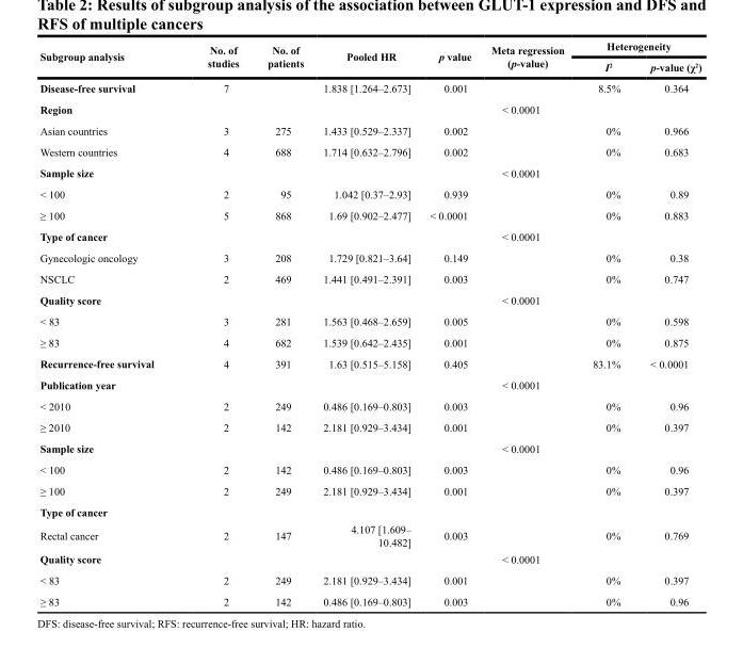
<table><thead><tr><td rowspan="2">Subgroup analysis</td><td rowspan="2">No. of studies</td><td rowspan="2">No. of patients</td><td rowspan="2">Pooled HR</td><td rowspan="2">p value</td><td rowspan="2">Meta regression (p-value)</td><td colspan="2">Heterogeneity</td></tr><tr><td>I<sup>2</sup></td><td>p-value (χ<sup>2</sup>)</td></tr></thead><tbody><tr><td>Disease-free survival</td><td>7</td><td></td><td>1.838 [1.264–2.673]</td><td>0.001</td><td></td><td>8.5%</td><td>0.364</td></tr><tr><td>Region</td><td></td><td></td><td></td><td></td><td>&lt; 0.0001</td><td></td><td></td></tr><tr><td>Asian countries</td><td>3</td><td>275</td><td>1.433 [0.529–2.337]</td><td>0.002</td><td></td><td>0%</td><td>0.966</td></tr><tr><td>Western countries</td><td>4</td><td>688</td><td>1.714 [0.632–2.796]</td><td>0.002</td><td></td><td>0%</td><td>0.683</td></tr><tr><td>Sample size</td><td></td><td></td><td></td><td></td><td>&lt; 0.0001</td><td></td><td></td></tr><tr><td>&lt; 100</td><td>2</td><td>95</td><td>1.042 [0.37–2.93]</td><td>0.939</td><td></td><td>0%</td><td>0.89</td></tr><tr><td>≥ 100</td><td>5</td><td>868</td><td>1.69 [0.902–2.477]</td><td>&lt; 0.0001</td><td></td><td>0%</td><td>0.883</td></tr><tr><td>Type of cancer</td><td></td><td></td><td></td><td></td><td>&lt; 0.0001</td><td></td><td></td></tr><tr><td>Gynecologic oncology</td><td>3</td><td>208</td><td>1.729 [0.821–3.64]</td><td>0.149</td><td></td><td>0%</td><td>0.38</td></tr><tr><td>NSCLC</td><td>2</td><td>469</td><td>1.441 [0.491–2.391]</td><td>0.003</td><td></td><td>0%</td><td>0.747</td></tr><tr><td>Quality score</td><td></td><td></td><td></td><td></td><td>&lt; 0.0001</td><td></td><td></td></tr><tr><td>&lt; 83</td><td>3</td><td>281</td><td>1.563 [0.468–2.659]</td><td>0.005</td><td></td><td>0%</td><td>0.598</td></tr><tr><td>≥ 83</td><td>4</td><td>682</td><td>1.539 [0.642–2.435]</td><td>0.001</td><td></td><td>0%</td><td>0.875</td></tr><tr><td>Recurrence-free survival</td><td>4</td><td>391</td><td>1.63 [0.515–5.158]</td><td>0.405</td><td></td><td>83.1%</td><td>&lt; 0.0001</td></tr><tr><td>Publication year</td><td></td><td></td><td></td><td></td><td>&lt; 0.0001</td><td></td><td></td></tr><tr><td>&lt; 2010</td><td>2</td><td>249</td><td>0.486 [0.169–0.803]</td><td>0.003</td><td></td><td>0%</td><td>0.96</td></tr><tr><td>≥ 2010</td><td>2</td><td>142</td><td>2.181 [0.929–3.434]</td><td>0.001</td><td></td><td>0%</td><td>0.397</td></tr><tr><td>Sample size</td><td></td><td></td><td></td><td></td><td>&lt; 0.0001</td><td></td><td></td></tr><tr><td>&lt; 100</td><td>2</td><td>142</td><td>0.486 [0.169–0.803]</td><td>0.003</td><td></td><td>0%</td><td>0.96</td></tr><tr><td>≥ 100</td><td>2</td><td>249</td><td>2.181 [0.929–3.434]</td><td>0.001</td><td></td><td>0%</td><td>0.397</td></tr><tr><td colspan="8">Type of cancer</td></tr><tr><td>Rectal cancer</td><td>2</td><td>147</td><td>4.107 [1.609– 10.482]</td><td>0.003</td><td></td><td>0%</td><td>0.769</td></tr><tr><td>Quality score</td><td></td><td></td><td></td><td></td><td>&lt; 0.0001</td><td></td><td></td></tr><tr><td>&lt; 83</td><td>2</td><td>249</td><td>2.181 [0.929–3.434]</td><td>0.001</td><td></td><td>0%</td><td>0.397</td></tr><tr><td>≥ 83</td><td>2</td><td>142</td><td>0.486 [0.169–0.803]</td><td>0.003</td><td></td><td>0%</td><td>0.96</td></tr></tbody></table>